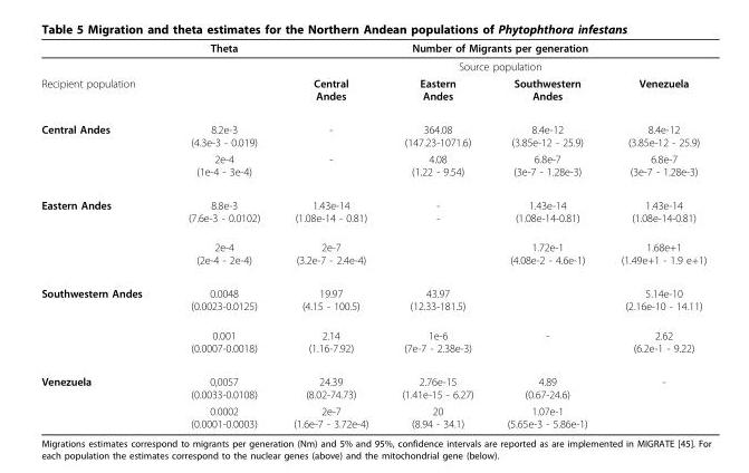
<table><thead><tr><td rowspan="3">Recipient population</td><td rowspan="3">Theta</td><td rowspan="2" colspan="4">Number of Migrants per generation Source population</td></tr><tr></tr><tr><td>Central Andes</td><td>Eastern Andes</td><td>Southwestern Andes</td><td>Venezuela</td></tr></thead><tbody><tr><td rowspan="2">Central Andes</td><td>8.2e-3 (4.3e-3 - 0.019)</td><td>-</td><td>364.08 (147.23-1071.6)</td><td>8.4e-12 (3.85e-12 - 25.9)</td><td>8.4e-12 (3.85e-12 - 25.9)</td></tr><tr><td>2e-4 (1e-4 - 3e-4)</td><td>-</td><td>4.08 (1.22 - 9.54)</td><td>6.8e-7 (3e-7 - 1.28e-3)</td><td>6.8e-7 (3e-7 - 1.28e-3)</td></tr><tr><td rowspan="2">Eastern Andes</td><td>8.8e-3 (7.6e-3 - 0.0102)</td><td>1.43e-14 (1.08e-14 - 0.81)</td><td>- -</td><td>1.43e-14 (1.08e-14-0.81)</td><td>1.43e-14 (1.08e-14-0.81)</td></tr><tr><td>2e-4 (2e-4 - 2e-4)</td><td>2e-7 (3.2e-7 - 2.4e-4)</td><td></td><td>1.72e-1 (4.08e-2 - 4.6e-1)</td><td>1.68e+1 (1.49e+1 - 1.9 e+1)</td></tr><tr><td rowspan="2">Southwestern Andes</td><td>0.0048 (0.0023-0.0125)</td><td>19.97 (4.15 - 100.5)</td><td>43.97 (12.33-181.5)</td><td></td><td>5.14e-10 (2.16e-10 - 14.11)</td></tr><tr><td>0.001 (0.0007-0.0018)</td><td>2.14 (1.16-7.92)</td><td>1e-6 (7e-7 - 2.38e-3)</td><td>-</td><td>2.62 (6.2e-1 - 9.22)</td></tr><tr><td rowspan="2">Venezuela</td><td>0,0057 (0.0033-0.0108)</td><td>24.39 (8.02-74.73)</td><td>2.76e-15 (1.41e-15 - 6.27)</td><td>4.89 (0.67-24.6)</td><td>-</td></tr><tr><td>0.0002 (0.0001-0.0003)</td><td>2e-7 (1.6e-7 - 3.72e-4)</td><td>20 (8.94 - 34.1)</td><td>1.07e-1 (5.65e-3 - 5.86e-1)</td><td></td></tr></tbody></table>